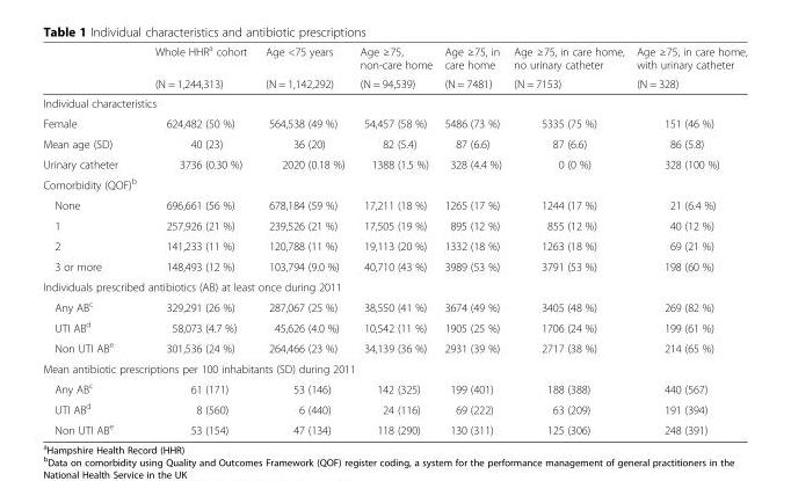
<table><thead><tr><td rowspan="2"></td><td rowspan="2">Whole HHR<sup>a</sup> cohort (N = 1,244,313)</td><td rowspan="2">Age &lt;75 years (N = 1,142,292)</td><td rowspan="2">Age ≥75, non-care home (N = 94,539)</td><td rowspan="2">Age ≥75, in care home (N = 7481)</td><td rowspan="2">Age ≥75, in care home, no urinary catheter (N = 7153)</td><td rowspan="2">Age ≥75, in care home, with urinary catheter (N = 328)</td></tr><tr></tr></thead><tbody><tr><td colspan="7">Individual characteristics</td></tr><tr><td>Female</td><td>624,482 (50 %)</td><td>564,538 (49 %)</td><td>54,457 (58 %)</td><td>5486 (73 %)</td><td>5335 (75 %)</td><td>151 (46 %)</td></tr><tr><td>Mean age (SD)</td><td>40 (23)</td><td>36 (20)</td><td>82 (5.4)</td><td>87 (6.6)</td><td>87 (6.6)</td><td>86 (5.8)</td></tr><tr><td>Urinary catheter</td><td>3736 (0.30 %)</td><td>2020 (0.18 %)</td><td>1388 (1.5 %)</td><td>328 (4.4 %)</td><td>0 (0 %)</td><td>328 (100 %)</td></tr><tr><td colspan="7">Comorbidity (QOF)<sup>b</sup></td></tr><tr><td>None</td><td>696,661 (56 %)</td><td>678,184 (59 %)</td><td>17,211 (18 %)</td><td>1265 (17 %)</td><td>1244 (17 %)</td><td>21 (6.4 %)</td></tr><tr><td>1</td><td>257,926 (21 %)</td><td>239,526 (21 %)</td><td>17,505 (19 %)</td><td>895 (12 %)</td><td>855 (12 %)</td><td>40 (12 %)</td></tr><tr><td>2</td><td>141,233 (11 %)</td><td>120,788 (11 %)</td><td>19,113 (20 %)</td><td>1332 (18 %)</td><td>1263 (18 %)</td><td>69 (21 %)</td></tr><tr><td>3 or more</td><td>148,493 (12 %)</td><td>103,794 (9.0 %)</td><td>40,710 (43 %)</td><td>3989 (53 %)</td><td>3791 (53 %)</td><td>198 (60 %)</td></tr><tr><td colspan="7">Individuals prescribed antibiotics (AB) at least once during 2011</td></tr><tr><td>Any AB<sup>c</sup></td><td>329,291 (26 %)</td><td>287,067 (25 %)</td><td>38,550 (41 %)</td><td>3674 (49 %)</td><td>3405 (48 %)</td><td>269 (82 %)</td></tr><tr><td>UTI AB<sup>d</sup></td><td>58,073 (4.7 %)</td><td>45,626 (4.0 %)</td><td>10,542 (11 %)</td><td>1905 (25 %)</td><td>1706 (24 %)</td><td>199 (61 %)</td></tr><tr><td>Non UTI AB<sup>e</sup></td><td>301,536 (24 %)</td><td>264,466 (23 %)</td><td>34,139 (36 %)</td><td>2931 (39 %)</td><td>2717 (38 %)</td><td>214 (65 %)</td></tr><tr><td colspan="7">Mean antibiotic prescriptions per 100 inhabitants (SD) during 2011</td></tr><tr><td>Any AB<sup>c</sup></td><td>61 (171)</td><td>53 (146)</td><td>142 (325)</td><td>199 (401)</td><td>188 (388)</td><td>440 (567)</td></tr><tr><td>UTI AB<sup>d</sup></td><td>8 (560)</td><td>6 (440)</td><td>24 (116)</td><td>69 (222)</td><td>63 (209)</td><td>191 (394)</td></tr><tr><td>Non UTI AB<sup>e</sup></td><td>53 (154)</td><td>47 (134)</td><td>118 (290)</td><td>130 (311)</td><td>125 (306)</td><td>248 (391)</td></tr></tbody></table>